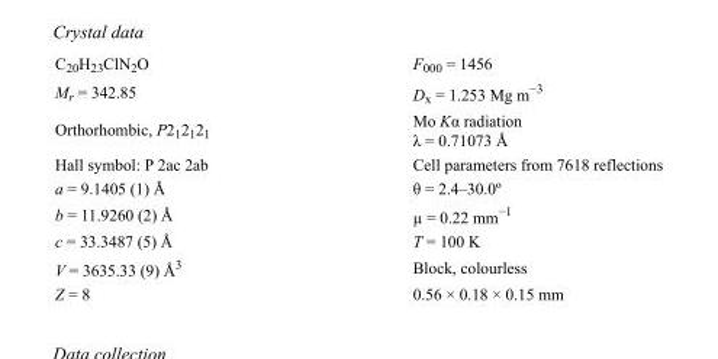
<table><tbody><tr><td>C<sub>20</sub>H<sub>23</sub>ClN<sub>2</sub>O</td><td>F000 = 1456</td></tr><tr><td>M<sub>r</sub> = 342.85</td><td>D<sub>x</sub> = 1.253 Mg m<sup>−3</sup></td></tr><tr><td>Orthorhombic, P2<sub>1</sub>2<sub>1</sub>2<sub>1</sub></td><td>Mo Kα radiation λ = 0.71073 Å</td></tr><tr><td>Hall symbol: P 2ac 2ab</td><td>Cell parameters from 7618 reflections</td></tr><tr><td>a = 9.1405 (1) Å</td><td>θ = 2.4–30.0º</td></tr><tr><td>b = 11.9260 (2) Å</td><td>µ = 0.22 mm<sup>−1</sup></td></tr><tr><td>c = 33.3487 (5) Å</td><td>T = 100 K</td></tr><tr><td>V = 3635.33 (9) Å<sup>3</sup></td><td>Block, colourless</td></tr><tr><td>Z = 8</td><td>0.56 × 0.18 × 0.15 mm</td></tr></tbody></table>